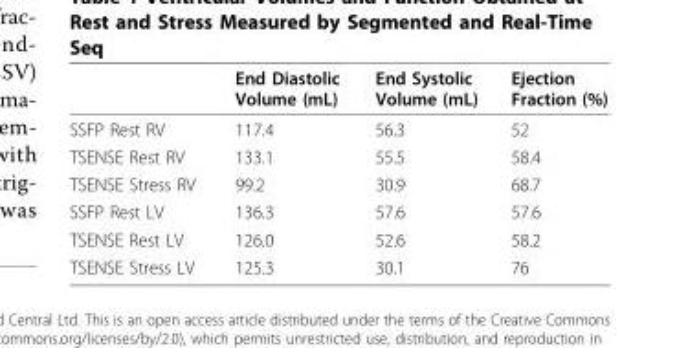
<table><thead><tr><td></td><td>End Diastolic Volume (mL)</td><td>End Systolic Volume (mL)</td><td>Ejection Fraction (%)</td></tr></thead><tbody><tr><td>SSFP Rest RV</td><td>117.4</td><td>56.3</td><td>52</td></tr><tr><td>TSENSE Rest RV</td><td>133.1</td><td>55.5</td><td>58.4</td></tr><tr><td>TSENSE Stress RV</td><td>99.2</td><td>30.9</td><td>68.7</td></tr><tr><td>SSFP Rest LV</td><td>136.3</td><td>57.6</td><td>57.6</td></tr><tr><td>TSENSE Rest LV</td><td>126.0</td><td>52.6</td><td>58.2</td></tr><tr><td>TSENSE Stress LV</td><td>125.3</td><td>30.1</td><td>76</td></tr></tbody></table>